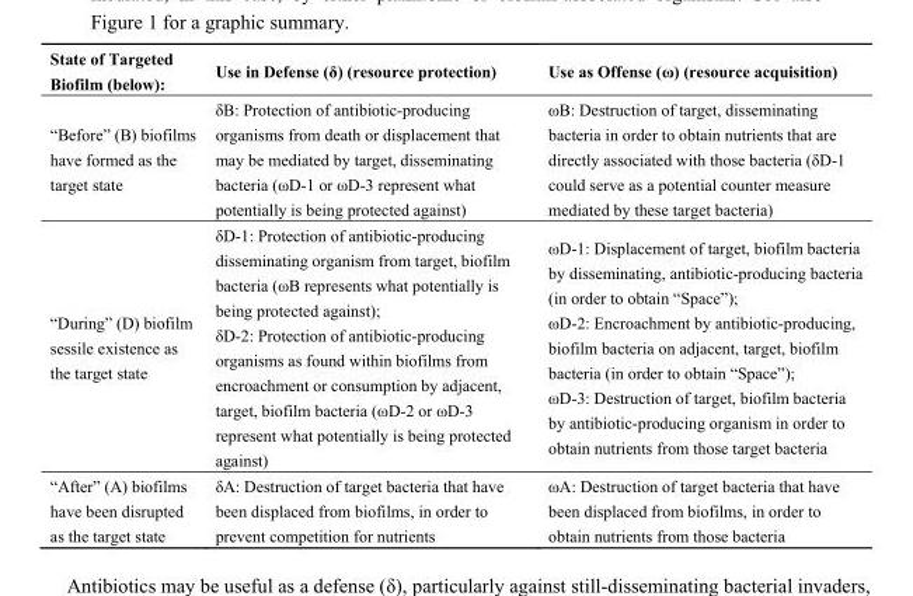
<table><thead><tr><td>State of Targeted Biofilm (below):</td><td>Use in Defense (δ) (resource protection)</td><td>Use as Offense (ω) (resource acquisition)</td></tr></thead><tbody><tr><td>“Before” (B) biofilms have formed as the target state</td><td>δB: Protection of antibiotic-producing organisms from death or displacement that may be mediated by target, disseminating bacteria (ωD-1 or ωD-3 represent what potentially is being protected against)</td><td>ωB: Destruction of target, disseminating bacteria in order to obtain nutrients that are directly associated with those bacteria (δD-1 could serve as a potential counter measure mediated by these target bacteria)</td></tr><tr><td>“During” (D) biofilm sessile existence as the target state</td><td>δD-1: Protection of antibiotic-producing disseminating organism from target, biofilm bacteria (ωB represents what potentially is being protected against); δD-2: Protection of antibiotic-producing organisms as found within biofilms from encroachment or consumption by adjacent, target, biofilm bacteria (ωD-2 or ωD-3 represent what potentially is being protected against)</td><td>ωD-1: Displacement of target, biofilm bacteria by disseminating, antibiotic-producing bacteria (in order to obtain “Space”); ωD-2: Encroachment by antibiotic-producing, biofilm bacteria on adjacent, target, biofilm bacteria (in order to obtain “Space”); ωD-3: Destruction of target, biofilm bacteria by antibiotic-producing organism in order to obtain nutrients from those target bacteria</td></tr><tr><td>“After” (A) biofilms have been disrupted as the target state</td><td>δA: Destruction of target bacteria that have been displaced from biofilms, in order to prevent competition for nutrients</td><td>ωA: Destruction of target bacteria that have been displaced from biofilms, in order to obtain nutrients from those bacteria</td></tr></tbody></table>